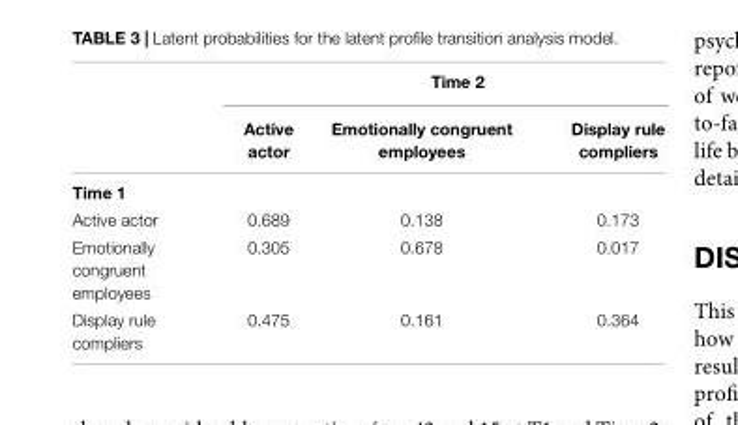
<table><thead><tr><td rowspan="2"></td><td colspan="3">Time 2</td></tr><tr><td>Active actor</td><td>Emotionally congruent employees</td><td>Display rule compliers</td></tr></thead><tbody><tr><td colspan="4">Time 1</td></tr><tr><td>Active actor</td><td>0.689</td><td>0.138</td><td>0.173</td></tr><tr><td>Emotionally congruent employees</td><td>0.305</td><td>0.678</td><td>0.017</td></tr><tr><td>Display rule compliers</td><td>0.475</td><td>0.161</td><td>0.364</td></tr></tbody></table>